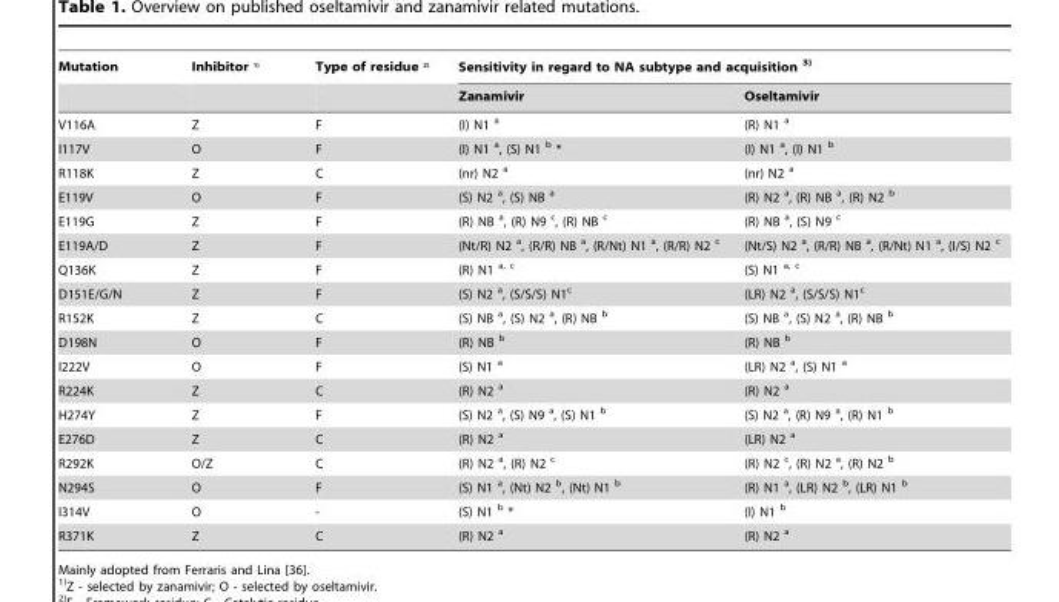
<table><thead><tr><td rowspan="2">Mutation</td><td rowspan="2">Inhibitor 1)</td><td rowspan="2">Type of residue 2)</td><td colspan="2">Sensitivity in regard to NA subtype and acquisition 3)</td></tr><tr><td>Zanamivir</td><td>Oseltamivir</td></tr></thead><tbody><tr><td>V116A</td><td>Z</td><td>F</td><td>(I) N1 <sup>a</sup></td><td>(R) N1 <sup>a</sup></td></tr><tr><td>I117V</td><td>O</td><td>F</td><td>(I) N1 <sup>a</sup>, (S) N1 <sup>b</sup> *</td><td>(I) N1 <sup>a</sup>, (I) N1 <sup>b</sup></td></tr><tr><td>R118K</td><td>Z</td><td>C</td><td>(nr) N2 <sup>a</sup></td><td>(nr) N2 <sup>a</sup></td></tr><tr><td>E119V</td><td>O</td><td>F</td><td>(S) N2 <sup>a</sup>, (S) NB <sup>a</sup></td><td>(R) N2 <sup>a</sup>, (R) NB <sup>a</sup>, (R) N2 <sup>b</sup></td></tr><tr><td>E119G</td><td>Z</td><td>F</td><td>(R) NB <sup>a</sup>, (R) N9 <sup>c</sup>, (R) NB <sup>c</sup></td><td>(R) NB <sup>a</sup>, (S) N9 <sup>c</sup></td></tr><tr><td>E119A/D</td><td>Z</td><td>F</td><td>(Nt/R) N2 <sup>a</sup>, (R/R) NB <sup>a</sup>, (R/Nt) N1 <sup>a</sup>, (R/R) N2 <sup>c</sup></td><td>(Nt/S) N2 <sup>a</sup>, (R/R) NB <sup>a</sup>, (R/Nt) N1 <sup>a</sup>, (I/S) N2 <sup>c</sup></td></tr><tr><td>Q136K</td><td>Z</td><td>F</td><td>(R) N1 <sup>a, c</sup></td><td>(S) N1 <sup>a, c</sup></td></tr><tr><td>D151E/G/N</td><td>Z</td><td>F</td><td>(S) N2 <sup>a</sup>, (S/S/S) N1<sup>c</sup></td><td>(LR) N2 <sup>a</sup>, (S/S/S) N1<sup>c</sup></td></tr><tr><td>R152K</td><td>Z</td><td>C</td><td>(S) NB <sup>a</sup>, (S) N2 <sup>a</sup>, (R) NB <sup>b</sup></td><td>(S) NB <sup>a</sup>, (S) N2 <sup>a</sup>, (R) NB <sup>b</sup></td></tr><tr><td>D198N</td><td>O</td><td>F</td><td>(R) NB <sup>b</sup></td><td>(R) NB <sup>b</sup></td></tr><tr><td>I222V</td><td>O</td><td>F</td><td>(S) N1 <sup>a</sup></td><td>(LR) N2 <sup>a</sup>, (S) N1 <sup>a</sup></td></tr><tr><td>R224K</td><td>Z</td><td>C</td><td>(R) N2 <sup>a</sup></td><td>(R) N2 <sup>a</sup></td></tr><tr><td>H274Y</td><td>Z</td><td>F</td><td>(S) N2 <sup>a</sup>, (S) N9 <sup>a</sup>, (S) N1 <sup>b</sup></td><td>(S) N2 <sup>a</sup>, (R) N9 <sup>a</sup>, (R) N1 <sup>b</sup></td></tr><tr><td>E276D</td><td>Z</td><td>C</td><td>(R) N2 <sup>a</sup></td><td>(LR) N2 <sup>a</sup></td></tr><tr><td>R292K</td><td>O/Z</td><td>C</td><td>(R) N2 <sup>a</sup>, (R) N2 <sup>c</sup></td><td>(R) N2 <sup>c</sup>, (R) N2 <sup>a</sup>, (R) N2 <sup>b</sup></td></tr><tr><td>N294S</td><td>O</td><td>F</td><td>(S) N1 <sup>a</sup>, (Nt) N2 <sup>b</sup>, (Nt) N1 <sup>b</sup></td><td>(R) N1 <sup>a</sup>, (LR) N2 <sup>b</sup>, (LR) N1 <sup>b</sup></td></tr><tr><td>I314V</td><td>O</td><td>-</td><td>(S) N1 <sup>b</sup> *</td><td>(I) N1 <sup>b</sup></td></tr><tr><td>R371K</td><td>Z</td><td>C</td><td>(R) N2 <sup>a</sup></td><td>(R) N2 <sup>a</sup></td></tr></tbody></table>